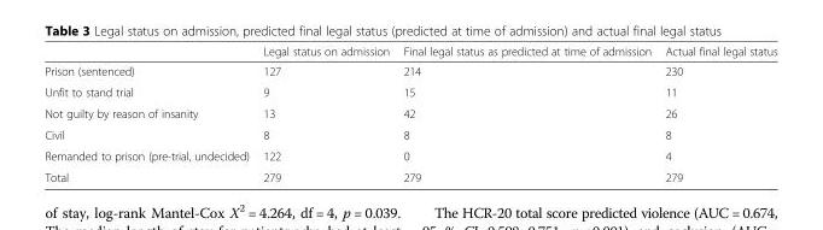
<table><thead><tr><td></td><td>Legal status on admission</td><td>Final legal status as predicted at time of admission</td><td>Actual final legal status</td></tr></thead><tbody><tr><td>Prison (sentenced)</td><td>127</td><td>214</td><td>230</td></tr><tr><td>Unfit to stand trial</td><td>9</td><td>15</td><td>11</td></tr><tr><td>Not guilty by reason of insanity</td><td>13</td><td>42</td><td>26</td></tr><tr><td>Civil</td><td>8</td><td>8</td><td>8</td></tr><tr><td>Remanded to prison (pre-trial, undecided)</td><td>122</td><td>0</td><td>4</td></tr><tr><td>Total</td><td>279</td><td>279</td><td>279</td></tr></tbody></table>